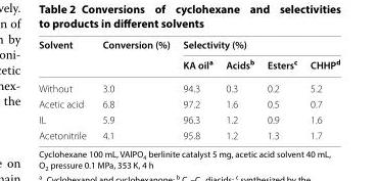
<table><thead><tr><td rowspan="2">Solvent</td><td rowspan="2">Conversion (%)</td><td colspan="4">Selectivity (%)</td></tr><tr><td>KA oil<sup>a</sup></td><td>Acids<sup>b</sup></td><td>Esters<sup>c</sup></td><td>CHHP<sup>d</sup></td></tr></thead><tbody><tr><td>Without</td><td>3.0</td><td>94.3</td><td>0.3</td><td>0.2</td><td>5.2</td></tr><tr><td>Acetic acid</td><td>6.8</td><td>97.2</td><td>1.6</td><td>0.5</td><td>0.7</td></tr><tr><td>IL</td><td>5.9</td><td>96.3</td><td>1.2</td><td>0.9</td><td>1.6</td></tr><tr><td>Acetonitrile</td><td>4.1</td><td>95.8</td><td>1.2</td><td>1.3</td><td>1.7</td></tr></tbody></table>